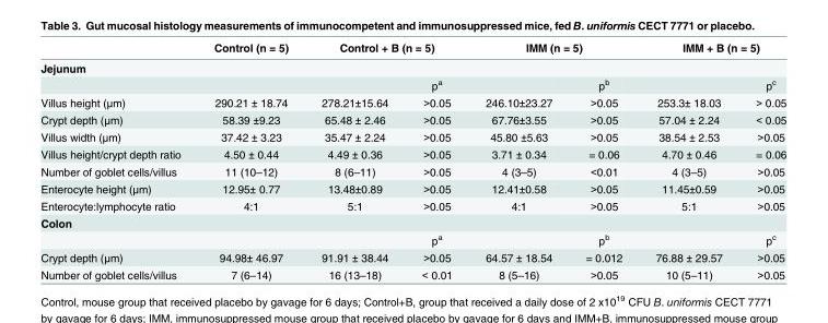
<table><thead><tr><td rowspan="3">Jejunum</td><td>Control (n = 5)</td><td colspan="2">Control + B (n = 5)</td><td colspan="2">IMM (n = 5)</td><td colspan="2">IMM + B (n = 5)</td></tr><tr><td colspan="7"></td></tr><tr><td></td><td></td><td>p<sup>a</sup></td><td></td><td>p<sup>b</sup></td><td></td><td>p<sup>c</sup></td></tr></thead><tbody><tr><td>Villus height (μm)</td><td>290.21 ± 18.74</td><td>278.21±15.64</td><td>&gt;0.05</td><td>246.10±23.27</td><td>&gt;0.05</td><td>253.3± 18.03</td><td>&gt; 0.05</td></tr><tr><td>Crypt depth (μm)</td><td>58.39 ±9.23</td><td>65.48 ± 2.46</td><td>&gt;0.05</td><td>67.76±3.55</td><td>&gt;0.05</td><td>57.04 ± 2.24</td><td>&lt; 0.05</td></tr><tr><td>Villus width (μm)</td><td>37.42 ± 3.23</td><td>35.47 ± 2.24</td><td>&gt;0.05</td><td>45.80 ±5.63</td><td>&gt;0.05</td><td>38.54 ± 2.53</td><td>&gt;0.05</td></tr><tr><td>Villus height/crypt depth ratio</td><td>4.50 ± 0.44</td><td>4.49 ± 0.36</td><td>&gt;0.05</td><td>3.71 ± 0.34</td><td>= 0.06</td><td>4.70 ± 0.46</td><td>= 0.06</td></tr><tr><td>Number of goblet cells/villus</td><td>11 (10–12)</td><td>8 (6–11)</td><td>&gt;0.05</td><td>4 (3–5)</td><td>&lt;0.01</td><td>4 (3–5)</td><td>&gt;0.05</td></tr><tr><td>Enterocyte height (μm)</td><td>12.95± 0.77</td><td>13.48±0.89</td><td>&gt;0.05</td><td>12.41±0.58</td><td>&gt;0.05</td><td>11.45±0.59</td><td>&gt;0.05</td></tr><tr><td>Enterocyte:lymphocyte ratio</td><td>4:1</td><td>5:1</td><td>&gt;0.05</td><td>4:1</td><td>&gt;0.05</td><td>5:1</td><td>&gt;0.05</td></tr><tr><td colspan="8">Colon</td></tr><tr><td></td><td></td><td></td><td>p<sup>a</sup></td><td></td><td>p<sup>b</sup></td><td></td><td>p<sup>c</sup></td></tr><tr><td>Crypt depth (μm)</td><td>94.98± 46.97</td><td>91.91 ± 38.44</td><td>&gt;0.05</td><td>64.57 ± 18.54</td><td>= 0.012</td><td>76.88 ± 29.57</td><td>&gt;0.05</td></tr><tr><td>Number of goblet cells/villus</td><td>7 (6–14)</td><td>16 (13–18)</td><td>&lt; 0.01</td><td>8 (5–16)</td><td>&gt;0.05</td><td>10 (5–11)</td><td>&gt;0.05</td></tr></tbody></table>